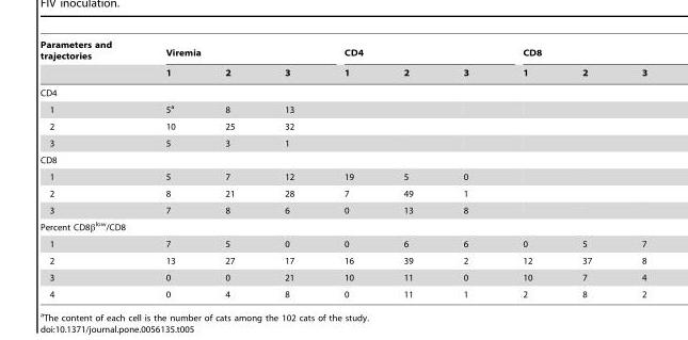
<table><thead><tr><td rowspan="2">Parameters and trajectories</td><td colspan="3">Viremia</td><td colspan="3">CD4</td><td colspan="3">CD8</td></tr><tr><td>1</td><td>2</td><td>3</td><td>1</td><td>2</td><td>3</td><td>1</td><td>2</td><td>3</td></tr></thead><tbody><tr><td colspan="10">CD4</td></tr><tr><td>1</td><td>5<sup>a</sup></td><td>8</td><td>13</td><td></td><td></td><td></td><td></td><td></td><td></td></tr><tr><td>2</td><td>10</td><td>25</td><td>32</td><td></td><td></td><td></td><td></td><td></td><td></td></tr><tr><td>3</td><td>5</td><td>3</td><td>1</td><td></td><td></td><td></td><td></td><td></td><td></td></tr><tr><td colspan="10">CD8</td></tr><tr><td>1</td><td>5</td><td>7</td><td>12</td><td>19</td><td>5</td><td>0</td><td></td><td></td><td></td></tr><tr><td>2</td><td>8</td><td>21</td><td>28</td><td>7</td><td>49</td><td>1</td><td></td><td></td><td></td></tr><tr><td>3</td><td>7</td><td>8</td><td>6</td><td>0</td><td>13</td><td>8</td><td></td><td></td><td></td></tr><tr><td colspan="10">Percent CD8β<sup>low</sup>/CD8</td></tr><tr><td>1</td><td>7</td><td>5</td><td>0</td><td>0</td><td>6</td><td>6</td><td>0</td><td>5</td><td>7</td></tr><tr><td>2</td><td>13</td><td>27</td><td>17</td><td>16</td><td>39</td><td>2</td><td>12</td><td>37</td><td>8</td></tr><tr><td>3</td><td>0</td><td>0</td><td>21</td><td>10</td><td>11</td><td>0</td><td>10</td><td>7</td><td>4</td></tr><tr><td>4</td><td>0</td><td>4</td><td>8</td><td>0</td><td>11</td><td>1</td><td>2</td><td>8</td><td>2</td></tr></tbody></table>